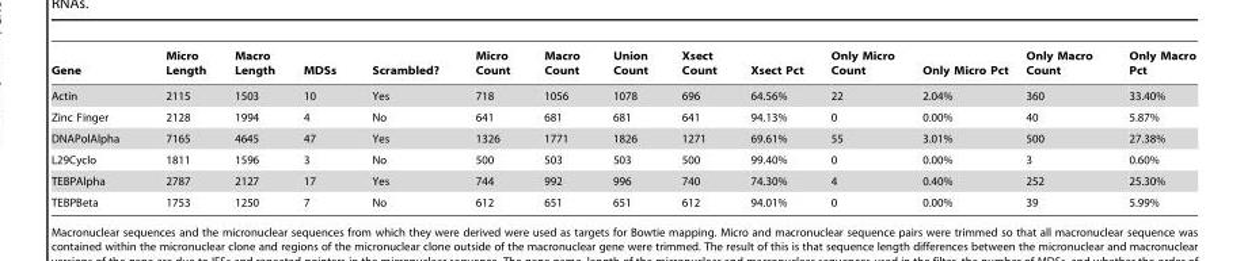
<table><thead><tr><td>Gene</td><td>Micro Length</td><td>Macro Length</td><td>MDSs</td><td>Scrambled?</td><td>Micro Count</td><td>Macro Count</td><td>Union Count</td><td>Xsect Count</td><td>Xsect Pct</td><td>Only Micro Count</td><td>Only Micro Pct</td><td>Only Macro Count</td><td>Only Macro Pct</td></tr></thead><tbody><tr><td>Actin</td><td>2115</td><td>1503</td><td>10</td><td>Yes</td><td>718</td><td>1056</td><td>1078</td><td>696</td><td>64.56%</td><td>22</td><td>2.04%</td><td>360</td><td>33.40%</td></tr><tr><td>Zinc Finger</td><td>2128</td><td>1994</td><td>4</td><td>No</td><td>641</td><td>681</td><td>681</td><td>641</td><td>94.13%</td><td>0</td><td>0.00%</td><td>40</td><td>5.87%</td></tr><tr><td>DNAPolAlpha</td><td>7165</td><td>4645</td><td>47</td><td>Yes</td><td>1326</td><td>1771</td><td>1826</td><td>1271</td><td>69.61%</td><td>55</td><td>3.01%</td><td>500</td><td>27.38%</td></tr><tr><td>L29Cyclo</td><td>1811</td><td>1596</td><td>3</td><td>No</td><td>500</td><td>503</td><td>503</td><td>500</td><td>99.40%</td><td>0</td><td>0.00%</td><td>3</td><td>0.60%</td></tr><tr><td>TEBPAlpha</td><td>2787</td><td>2127</td><td>17</td><td>Yes</td><td>744</td><td>992</td><td>996</td><td>740</td><td>74.30%</td><td>4</td><td>0.40%</td><td>252</td><td>25.30%</td></tr><tr><td>TEBPBeta</td><td>1753</td><td>1250</td><td>7</td><td>No</td><td>612</td><td>651</td><td>651</td><td>612</td><td>94.01%</td><td>0</td><td>0.00%</td><td>39</td><td>5.99%</td></tr></tbody></table>